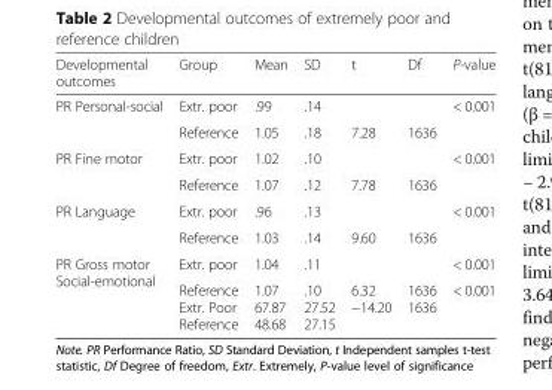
<table><thead><tr><td>Developmental outcomes</td><td>Group</td><td>Mean</td><td>SD</td><td>t</td><td>Df</td><td>P-value</td></tr></thead><tbody><tr><td rowspan="2">PR Personal-social</td><td>Extr. poor</td><td>.99</td><td>.14</td><td></td><td></td><td rowspan="2">&lt; 0.001</td></tr><tr><td>Reference</td><td>1.05</td><td>.18</td><td>7.28</td><td>1636</td></tr><tr><td rowspan="2">PR Fine motor</td><td>Extr. poor</td><td>1.02</td><td>.10</td><td></td><td></td><td rowspan="2">&lt; 0.001</td></tr><tr><td>Reference</td><td>1.07</td><td>.12</td><td>7.78</td><td>1636</td></tr><tr><td rowspan="2">PR Language</td><td>Extr. poor</td><td>.96</td><td>.13</td><td></td><td></td><td rowspan="2">&lt; 0.001</td></tr><tr><td>Reference</td><td>1.03</td><td>.14</td><td>9.60</td><td>1636</td></tr><tr><td rowspan="2">PR Gross motor Social-emotional</td><td>Extr. poor</td><td>1.04</td><td>.11</td><td></td><td></td><td>&lt; 0.001</td></tr><tr><td>Reference Extr. Poor Reference</td><td>1.07 67.87 48.68</td><td>.10 27.52 27.15</td><td>6.32 −14.20</td><td>1636 1636</td><td>&lt; 0.001</td></tr></tbody></table>